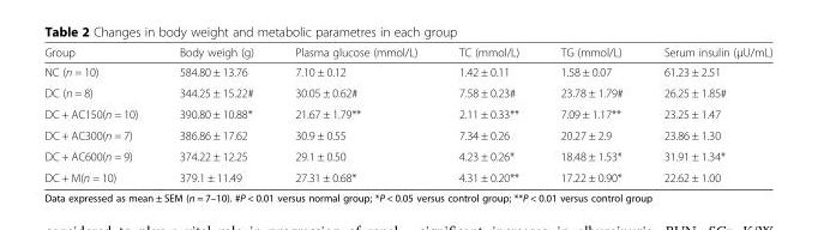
<table><thead><tr><td>Group</td><td>Body weigh (g)</td><td>Plasma glucose (mmol/L)</td><td>TC (mmol/L)</td><td>TG (mmol/L)</td><td>Serum insulin (μU/mL)</td></tr></thead><tbody><tr><td>NC (n = 10)</td><td>584.80 ± 13.76</td><td>7.10 ± 0.12</td><td>1.42 ± 0.11</td><td>1.58 ± 0.07</td><td>61.23 ± 2.51</td></tr><tr><td>DC (n = 8)</td><td>344.25 ± 15.22#</td><td>30.05 ± 0.62#</td><td>7.58 ± 0.23#</td><td>23.78 ± 1.79#</td><td>26.25 ± 1.85#</td></tr><tr><td>DC + AC150(n = 10)</td><td>390.80 ± 10.88*</td><td>21.67 ± 1.79**</td><td>2.11 ± 0.33**</td><td>7.09 ± 1.17**</td><td>23.25 ± 1.47</td></tr><tr><td>DC + AC300(n = 7)</td><td>386.86 ± 17.62</td><td>30.9 ± 0.55</td><td>7.34 ± 0.26</td><td>20.27 ± 2.9</td><td>23.86 ± 1.30</td></tr><tr><td>DC + AC600(n = 9)</td><td>374.22 ± 12.25</td><td>29.1 ± 0.50</td><td>4.23 ± 0.26*</td><td>18.48 ± 1.53*</td><td>31.91 ± 1.34*</td></tr><tr><td>DC + M(n = 10)</td><td>379.1 ± 11.49</td><td>27.31 ± 0.68*</td><td>4.31 ± 0.20**</td><td>17.22 ± 0.90*</td><td>22.62 ± 1.00</td></tr></tbody></table>